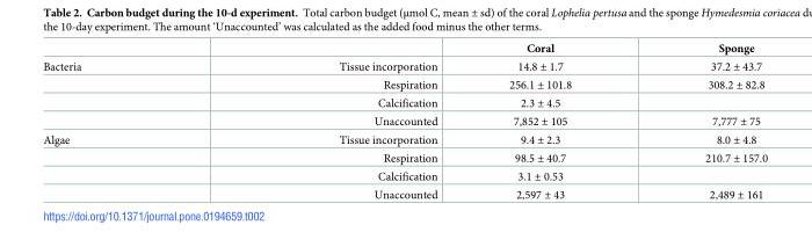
<table><thead><tr><td></td><td></td><td>Coral</td><td>Sponge</td></tr></thead><tbody><tr><td rowspan="4">Bacteria</td><td>Tissue incorporation</td><td>14.8 ± 1.7</td><td>37.2 ± 43.7</td></tr><tr><td>Respiration</td><td>256.1 ± 101.8</td><td>308.2 ± 82.8</td></tr><tr><td>Calcification</td><td>2.3 ± 4.5</td><td></td></tr><tr><td>Unaccounted</td><td>7,852 ± 105</td><td>7,777 ± 75</td></tr><tr><td rowspan="4">Algae</td><td>Tissue incorporation</td><td>9.4 ± 2.3</td><td>8.0 ± 4.8</td></tr><tr><td>Respiration</td><td>98.5 ± 40.7</td><td>210.7 ± 157.0</td></tr><tr><td>Calcification</td><td>3.1 ± 0.53</td><td></td></tr><tr><td>Unaccounted</td><td>2,597 ± 43</td><td>2,489 ± 161</td></tr></tbody></table>